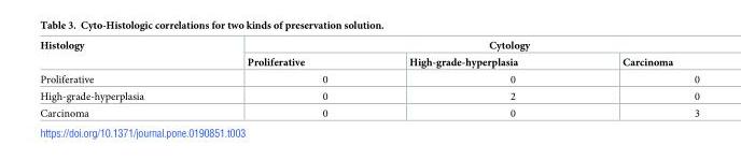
<table><thead><tr><td rowspan="2">Histology</td><td colspan="3">Cytology</td></tr><tr><td>Proliferative</td><td>High-grade-hyperplasia</td><td>Carcinoma</td></tr></thead><tbody><tr><td>Proliferative</td><td>0</td><td>0</td><td>0</td></tr><tr><td>High-grade-hyperplasia</td><td>0</td><td>2</td><td>0</td></tr><tr><td>Carcinoma</td><td>0</td><td>0</td><td>3</td></tr></tbody></table>